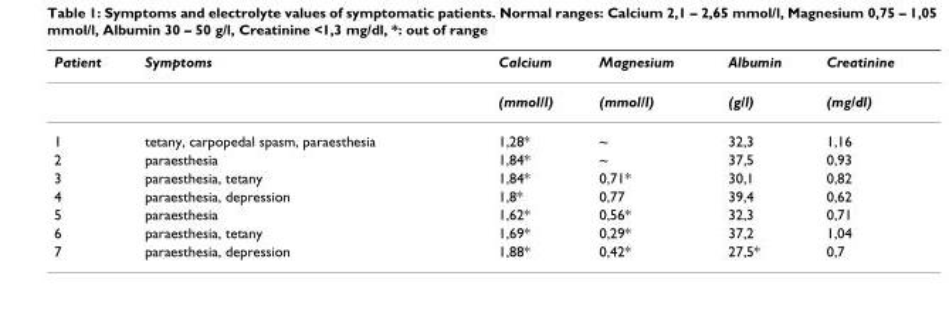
<table><thead><tr><td>Patient</td><td>Symptoms</td><td>Calcium</td><td>Magnesium</td><td>Albumin</td><td>Creatinine</td></tr></thead><tbody><tr><td></td><td></td><td>(mmol/l)</td><td>(mmol/l)</td><td>(g/l)</td><td>(mg/dl)</td></tr><tr><td>1</td><td>tetany, carpopedal spasm, paraesthesia</td><td>1,28*</td><td>~</td><td>32,3</td><td>1,16</td></tr><tr><td>2</td><td>paraesthesia</td><td>1,84*</td><td>~</td><td>37,5</td><td>0,93</td></tr><tr><td>3</td><td>paraesthesia, tetany</td><td>1,84*</td><td>0,71*</td><td>30,1</td><td>0,82</td></tr><tr><td>4</td><td>paraesthesia, depression</td><td>1,8*</td><td>0,77</td><td>39,4</td><td>0,62</td></tr><tr><td>5</td><td>paraesthesia</td><td>1,62*</td><td>0,56*</td><td>32,3</td><td>0,71</td></tr><tr><td>6</td><td>paraesthesia, tetany</td><td>1,69*</td><td>0,29*</td><td>37,2</td><td>1,04</td></tr><tr><td>7</td><td>paraesthesia, depression</td><td>1,88*</td><td>0,42*</td><td>27,5*</td><td>0,7</td></tr></tbody></table>